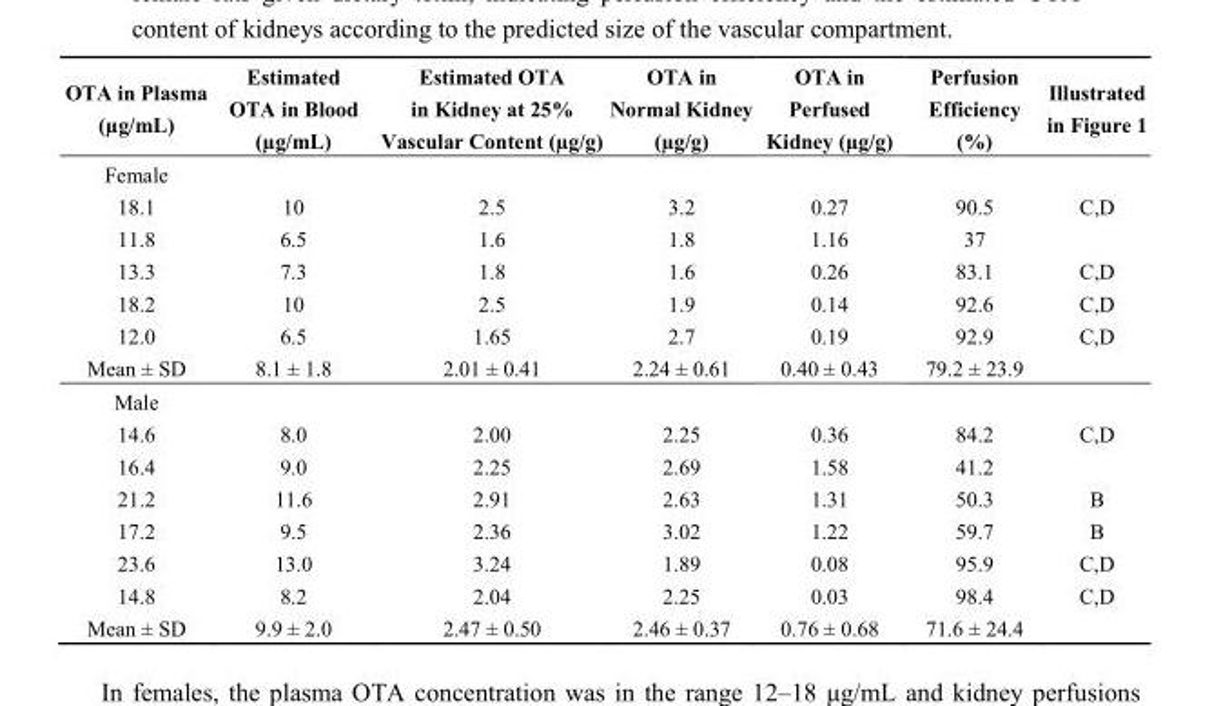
<table><thead><tr><td>OTA in Plasma (µg/mL)</td><td>Estimated OTA in Blood (µg/mL)</td><td>Estimated OTA in Kidney at 25% Vascular Content (µg/g)</td><td>OTA in Normal Kidney (µg/g)</td><td>OTA in Perfused Kidney (µg/g)</td><td>Perfusion Efficiency (%)</td><td>Illustrated in Figure 1</td></tr></thead><tbody><tr><td colspan="7">Female</td></tr><tr><td>18.1</td><td>10</td><td>2.5</td><td>3.2</td><td>0.27</td><td>90.5</td><td>C,D</td></tr><tr><td>11.8</td><td>6.5</td><td>1.6</td><td>1.8</td><td>1.16</td><td>37</td><td></td></tr><tr><td>13.3</td><td>7.3</td><td>1.8</td><td>1.6</td><td>0.26</td><td>83.1</td><td>C,D</td></tr><tr><td>18.2</td><td>10</td><td>2.5</td><td>1.9</td><td>0.14</td><td>92.6</td><td>C,D</td></tr><tr><td>12.0</td><td>6.5</td><td>1.65</td><td>2.7</td><td>0.19</td><td>92.9</td><td>C,D</td></tr><tr><td>Mean ± SD</td><td>8.1 ± 1.8</td><td>2.01 ± 0.41</td><td>2.24 ± 0.61</td><td>0.40 ± 0.43</td><td>79.2 ± 23.9</td><td></td></tr><tr><td colspan="7">Male</td></tr><tr><td>14.6</td><td>8.0</td><td>2.00</td><td>2.25</td><td>0.36</td><td>84.2</td><td>C,D</td></tr><tr><td>16.4</td><td>9.0</td><td>2.25</td><td>2.69</td><td>1.58</td><td>41.2</td><td></td></tr><tr><td>21.2</td><td>11.6</td><td>2.91</td><td>2.63</td><td>1.31</td><td>50.3</td><td>B</td></tr><tr><td>17.2</td><td>9.5</td><td>2.36</td><td>3.02</td><td>1.22</td><td>59.7</td><td>B</td></tr><tr><td>23.6</td><td>13.0</td><td>3.24</td><td>1.89</td><td>0.08</td><td>95.9</td><td>C,D</td></tr><tr><td>14.8</td><td>8.2</td><td>2.04</td><td>2.25</td><td>0.03</td><td>98.4</td><td>C,D</td></tr><tr><td>Mean ± SD</td><td>9.9 ± 2.0</td><td>2.47 ± 0.50</td><td>2.46 ± 0.37</td><td>0.76 ± 0.68</td><td>71.6 ± 24.4</td><td></td></tr></tbody></table>